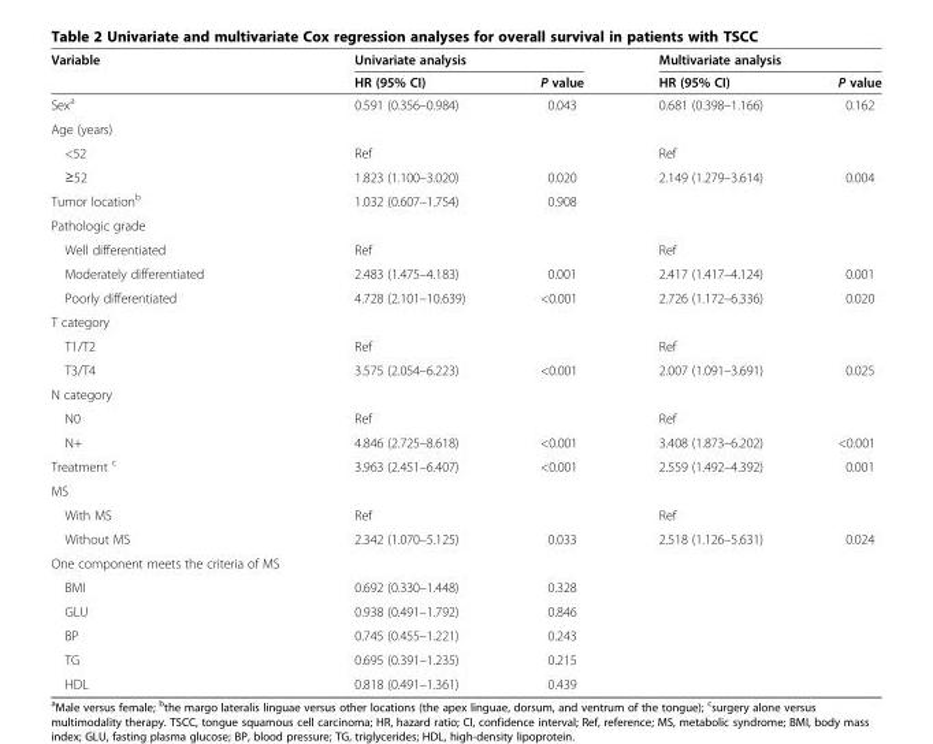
<table><thead><tr><td rowspan="2">Variable</td><td colspan="2">Univariate analysis</td><td colspan="2">Multivariate analysis</td></tr><tr><td>HR (95% CI)</td><td>P value</td><td>HR (95% CI)</td><td>P value</td></tr></thead><tbody><tr><td>Sex<sup>a</sup></td><td>0.591 (0.356–0.984)</td><td>0.043</td><td>0.681 (0.398–1.166)</td><td>0.162</td></tr><tr><td colspan="5">Age (years)</td></tr><tr><td>&lt;52</td><td>Ref</td><td></td><td>Ref</td><td></td></tr><tr><td>≥52</td><td>1.823 (1.100–3.020)</td><td>0.020</td><td>2.149 (1.279–3.614)</td><td>0.004</td></tr><tr><td>Tumor location<sup>b</sup></td><td>1.032 (0.607–1.754)</td><td>0.908</td><td></td><td></td></tr><tr><td colspan="5">Pathologic grade</td></tr><tr><td>Well differentiated</td><td>Ref</td><td></td><td>Ref</td><td></td></tr><tr><td>Moderately differentiated</td><td>2.483 (1.475–4.183)</td><td>0.001</td><td>2.417 (1.417–4.124)</td><td>0.001</td></tr><tr><td>Poorly differentiated</td><td>4.728 (2.101–10.639)</td><td>&lt;0.001</td><td>2.726 (1.172–6.336)</td><td>0.020</td></tr><tr><td colspan="5">T category</td></tr><tr><td>T1/T2</td><td>Ref</td><td></td><td>Ref</td><td></td></tr><tr><td>T3/T4</td><td>3.575 (2.054–6.223)</td><td>&lt;0.001</td><td>2.007 (1.091–3.691)</td><td>0.025</td></tr><tr><td colspan="5">N category</td></tr><tr><td>N0</td><td>Ref</td><td></td><td>Ref</td><td></td></tr><tr><td>N+</td><td>4.846 (2.725–8.618)</td><td>&lt;0.001</td><td>3.408 (1.873–6.202)</td><td>&lt;0.001</td></tr><tr><td>Treatment <sup>c</sup></td><td>3.963 (2.451–6.407)</td><td>&lt;0.001</td><td>2.559 (1.492–4.392)</td><td>0.001</td></tr><tr><td colspan="5">MS</td></tr><tr><td>With MS</td><td>Ref</td><td></td><td>Ref</td><td></td></tr><tr><td>Without MS</td><td>2.342 (1.070–5.125)</td><td>0.033</td><td>2.518 (1.126–5.631)</td><td>0.024</td></tr><tr><td colspan="5">One component meets the criteria of MS</td></tr><tr><td>BMI</td><td>0.692 (0.330–1.448)</td><td>0.328</td><td></td><td></td></tr><tr><td>GLU</td><td>0.938 (0.491–1.792)</td><td>0.846</td><td></td><td></td></tr><tr><td>BP</td><td>0.745 (0.455–1.221)</td><td>0.243</td><td></td><td></td></tr><tr><td>TG</td><td>0.695 (0.391–1.235)</td><td>0.215</td><td></td><td></td></tr><tr><td>HDL</td><td>0.818 (0.491–1.361)</td><td>0.439</td><td></td><td></td></tr></tbody></table>